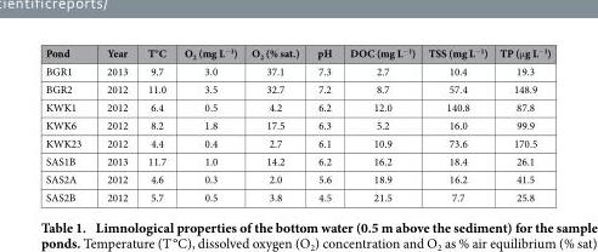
<table><thead><tr><td>Pond</td><td>Year</td><td>T°C</td><td>O<sub>2</sub> (mg L<sup>−1</sup>)</td><td>O<sub>2</sub> (% sat.)</td><td>pH</td><td>DOC (mg L<sup>−1</sup>)</td><td>TSS (mg L<sup>−1</sup>)</td><td>TP (μ g L<sup>−1</sup>)</td></tr></thead><tbody><tr><td>BGR1</td><td>2013</td><td>9.7</td><td>3.0</td><td>37.1</td><td>7.3</td><td>2.7</td><td>10.4</td><td>19.3</td></tr><tr><td>BGR2</td><td>2012</td><td>11.0</td><td>3.5</td><td>32.7</td><td>7.2</td><td>8.7</td><td>57.4</td><td>148.9</td></tr><tr><td>KWK1</td><td>2012</td><td>6.4</td><td>0.5</td><td>4.2</td><td>6.2</td><td>12.0</td><td>140.8</td><td>87.8</td></tr><tr><td>KWK6</td><td>2012</td><td>8.2</td><td>1.8</td><td>17.5</td><td>6.3</td><td>5.2</td><td>16.0</td><td>99.9</td></tr><tr><td>KWK23</td><td>2012</td><td>4.4</td><td>0.4</td><td>2.7</td><td>6.1</td><td>10.9</td><td>73.6</td><td>170.5</td></tr><tr><td>SAS1B</td><td>2013</td><td>11.7</td><td>1.0</td><td>14.2</td><td>6.2</td><td>16.2</td><td>18.4</td><td>26.1</td></tr><tr><td>SAS2A</td><td>2012</td><td>4.6</td><td>0.3</td><td>2.0</td><td>5.6</td><td>18.9</td><td>16.2</td><td>41.5</td></tr><tr><td>SAS2B</td><td>2012</td><td>5.7</td><td>0.5</td><td>3.8</td><td>4.5</td><td>21.5</td><td>7.7</td><td>25.8</td></tr></tbody></table>